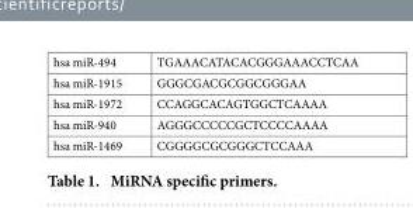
<table><tbody><tr><td>hsa miR-494</td><td>TGAAACATACACGGGAAACCTCAA</td></tr><tr><td>hsa miR-1915</td><td>GGGCGACGCGGCGGGAA</td></tr><tr><td>hsa miR-1972</td><td>CCAGGCACAGTGGCTCAAAA</td></tr><tr><td>hsa miR-940</td><td>AGGGCCCCCGCTCCCCAAAA</td></tr><tr><td>hsa miR-1469</td><td>CGGGGCGCGGGCTCCAAA</td></tr></tbody></table>